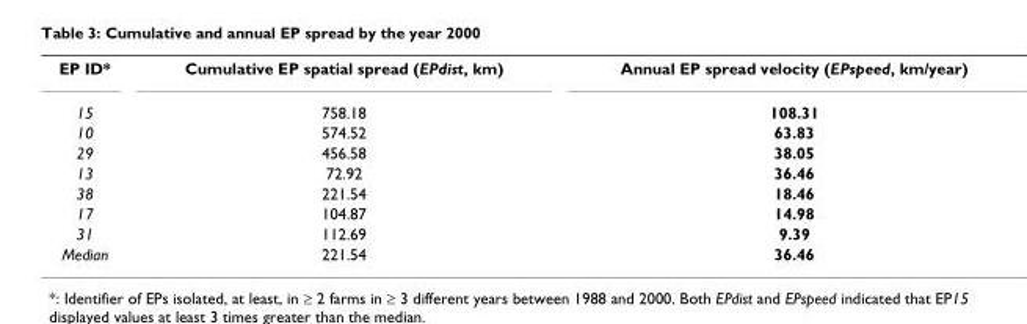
<table><tbody><tr><td>EP ID*</td><td>Cumulative EP spatial spread (EPdist, km)</td><td>Annual EP spread velocity (EPspeed, km/year)</td></tr><tr><td>15</td><td>758.18</td><td>108.31</td></tr><tr><td>10</td><td>574.52</td><td>63.83</td></tr><tr><td>29</td><td>456.58</td><td>38.05</td></tr><tr><td>13</td><td>72.92</td><td>36.46</td></tr><tr><td>38</td><td>221.54</td><td>18.46</td></tr><tr><td>17</td><td>104.87</td><td>14.98</td></tr><tr><td>31</td><td>112.69</td><td>9.39</td></tr><tr><td>Median</td><td>221.54</td><td>36.46</td></tr></tbody></table>